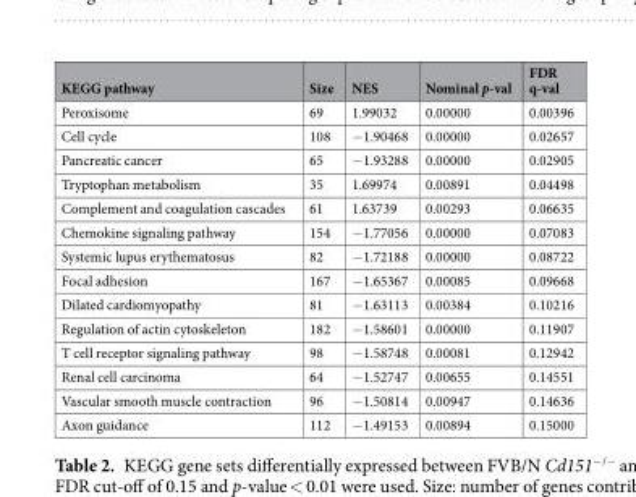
<table><thead><tr><td>KEGG pathway</td><td>Size</td><td>NES</td><td>Nominal p-val</td><td>FDR q-val</td></tr></thead><tbody><tr><td>Peroxisome</td><td>69</td><td>1.99032</td><td>0.00000</td><td>0.00396</td></tr><tr><td>Cell cycle</td><td>108</td><td>−1.90468</td><td>0.00000</td><td>0.02657</td></tr><tr><td>Pancreatic cancer</td><td>65</td><td>−1.93288</td><td>0.00000</td><td>0.02905</td></tr><tr><td>Tryptophan metabolism</td><td>35</td><td>1.69974</td><td>0.00891</td><td>0.04498</td></tr><tr><td>Complement and coagulation cascades</td><td>61</td><td>1.63739</td><td>0.00293</td><td>0.06635</td></tr><tr><td>Chemokine signaling pathway</td><td>154</td><td>−1.77056</td><td>0.00000</td><td>0.07083</td></tr><tr><td>Systemic lupus erythematosus</td><td>82</td><td>−1.72188</td><td>0.00000</td><td>0.08722</td></tr><tr><td>Focal adhesion</td><td>167</td><td>−1.65367</td><td>0.00085</td><td>0.09668</td></tr><tr><td>Dilated cardiomyopathy</td><td>81</td><td>−1.63113</td><td>0.00384</td><td>0.10216</td></tr><tr><td>Regulation of actin cytoskeleton</td><td>182</td><td>−1.58601</td><td>0.00000</td><td>0.11907</td></tr><tr><td>T cell receptor signaling pathway</td><td>98</td><td>−1.58748</td><td>0.00081</td><td>0.12942</td></tr><tr><td>Renal cell carcinoma</td><td>64</td><td>−1.52747</td><td>0.00655</td><td>0.14551</td></tr><tr><td>Vascular smooth muscle contraction</td><td>96</td><td>−1.50814</td><td>0.00947</td><td>0.14636</td></tr><tr><td>Axon guidance</td><td>112</td><td>−1.49153</td><td>0.00894</td><td>0.15000</td></tr></tbody></table>